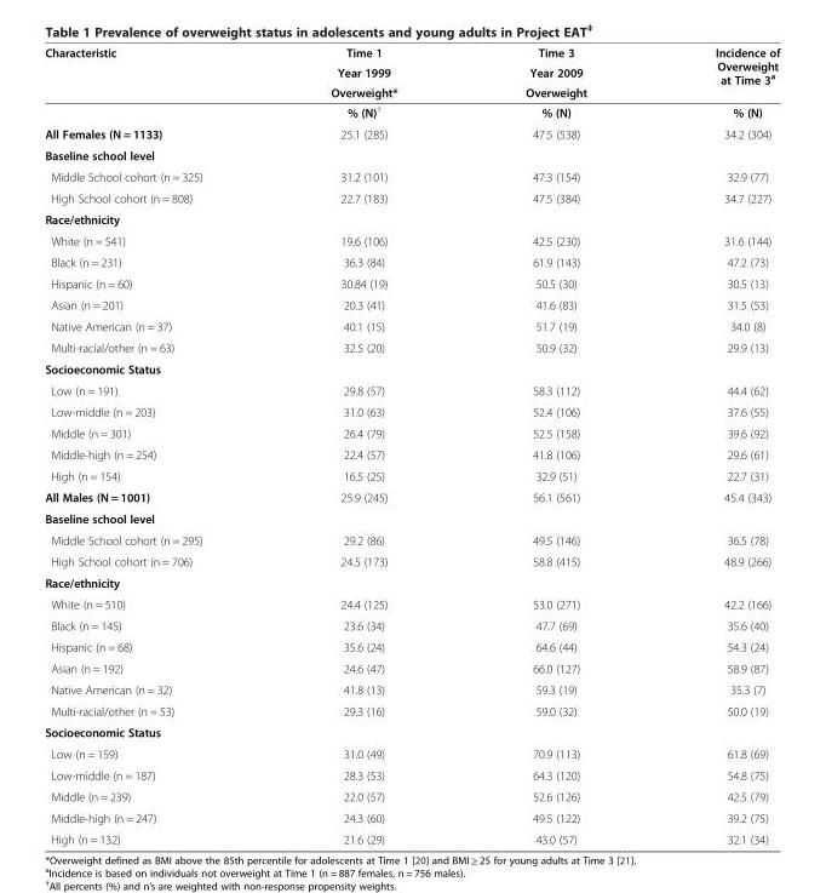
<table><thead><tr><td rowspan="3">Characteristic</td><td rowspan="3">Time 1 Year 1999 Overweight*</td><td rowspan="3">Time 3 Year 2009 Overweight</td><td rowspan="3">Incidence of Overweight at Time 3<sup>a</sup></td></tr><tr></tr><tr></tr></thead><tbody><tr><td></td><td>% (N)<sup>†</sup></td><td>% (N)</td><td>% (N)</td></tr><tr><td>All Females (N = 1133)</td><td>25.1 (285)</td><td>47.5 (538)</td><td>34.2 (304)</td></tr><tr><td colspan="4">Baseline school level</td></tr><tr><td>Middle School cohort (n = 325)</td><td>31.2 (101)</td><td>47.3 (154)</td><td>32.9 (77)</td></tr><tr><td>High School cohort (n = 808)</td><td>22.7 (183)</td><td>47.5 (384)</td><td>34.7 (227)</td></tr><tr><td colspan="4">Race/ethnicity</td></tr><tr><td>White (n = 541)</td><td>19.6 (106)</td><td>42.5 (230)</td><td>31.6 (144)</td></tr><tr><td>Black (n = 231)</td><td>36.3 (84)</td><td>61.9 (143)</td><td>47.2 (73)</td></tr><tr><td>Hispanic (n = 60)</td><td>30.84 (19)</td><td>50.5 (30)</td><td>30.5 (13)</td></tr><tr><td>Asian (n = 201)</td><td>20.3 (41)</td><td>41.6 (83)</td><td>31.5 (53)</td></tr><tr><td>Native American (n = 37)</td><td>40.1 (15)</td><td>51.7 (19)</td><td>34.0 (8)</td></tr><tr><td>Multi-racial/other (n = 63)</td><td>32.5 (20)</td><td>50.9 (32)</td><td>29.9 (13)</td></tr><tr><td colspan="4">Socioeconomic Status</td></tr><tr><td>Low (n = 191)</td><td>29.8 (57)</td><td>58.3 (112)</td><td>44.4 (62)</td></tr><tr><td>Low-middle (n = 203)</td><td>31.0 (63)</td><td>52.4 (106)</td><td>37.6 (55)</td></tr><tr><td>Middle (n = 301)</td><td>26.4 (79)</td><td>52.5 (158)</td><td>39.6 (92)</td></tr><tr><td>Middle-high (n = 254)</td><td>22.4 (57)</td><td>41.8 (106)</td><td>29.6 (61)</td></tr><tr><td>High (n = 154)</td><td>16.5 (25)</td><td>32.9 (51)</td><td>22.7 (31)</td></tr><tr><td>All Males (N = 1001)</td><td>25.9 (245)</td><td>56.1 (561)</td><td>45.4 (343)</td></tr><tr><td colspan="4">Baseline school level</td></tr><tr><td>Middle School cohort (n = 295)</td><td>29.2 (86)</td><td>49.5 (146)</td><td>36.5 (78)</td></tr><tr><td>High School cohort (n = 706)</td><td>24.5 (173)</td><td>58.8 (415)</td><td>48.9 (266)</td></tr><tr><td colspan="4">Race/ethnicity</td></tr><tr><td>White (n = 510)</td><td>24.4 (125)</td><td>53.0 (271)</td><td>42.2 (166)</td></tr><tr><td>Black (n = 145)</td><td>23.6 (34)</td><td>47.7 (69)</td><td>35.6 (40)</td></tr><tr><td>Hispanic (n = 68)</td><td>35.6 (24)</td><td>64.6 (44)</td><td>54.3 (24)</td></tr><tr><td>Asian (n = 192)</td><td>24.6 (47)</td><td>66.0 (127)</td><td>58.9 (87)</td></tr><tr><td>Native American (n = 32)</td><td>41.8 (13)</td><td>59.3 (19)</td><td>35.3 (7)</td></tr><tr><td>Multi-racial/other (n = 53)</td><td>29.3 (16)</td><td>59.0 (32)</td><td>50.0 (19)</td></tr><tr><td colspan="4">Socioeconomic Status</td></tr><tr><td>Low (n = 159)</td><td>31.0 (49)</td><td>70.9 (113)</td><td>61.8 (69)</td></tr><tr><td>Low-middle (n = 187)</td><td>28.3 (53)</td><td>64.3 (120)</td><td>54.8 (75)</td></tr><tr><td>Middle (n = 239)</td><td>22.0 (57)</td><td>52.6 (126)</td><td>42.5 (79)</td></tr><tr><td>Middle-high (n = 247)</td><td>24.3 (60)</td><td>49.5 (122)</td><td>39.2 (75)</td></tr><tr><td>High (n = 132)</td><td>21.6 (29)</td><td>43.0 (57)</td><td>32.1 (34)</td></tr></tbody></table>